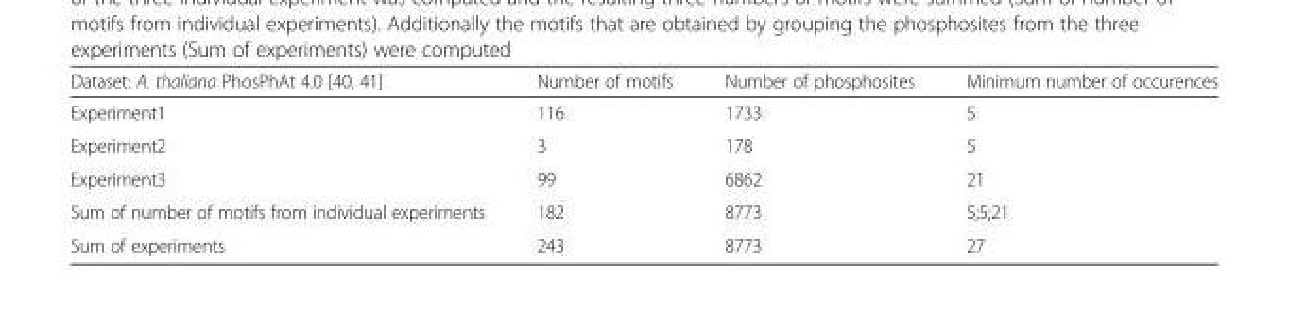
<table><thead><tr><td>Dataset: A. thaliana PhosPhAt 4.0 [40, 41]</td><td>Number of motifs</td><td>Number of phosphosites</td><td>Minimum number of occurences</td></tr></thead><tbody><tr><td>Experiment1</td><td>116</td><td>1733</td><td>5</td></tr><tr><td>Experiment2</td><td>3</td><td>178</td><td>5</td></tr><tr><td>Experiment3</td><td>99</td><td>6862</td><td>21</td></tr><tr><td>Sum of number of motifs from individual experiments</td><td>182</td><td>8773</td><td>5;5;21</td></tr><tr><td>Sum of experiments</td><td>243</td><td>8773</td><td>27</td></tr></tbody></table>